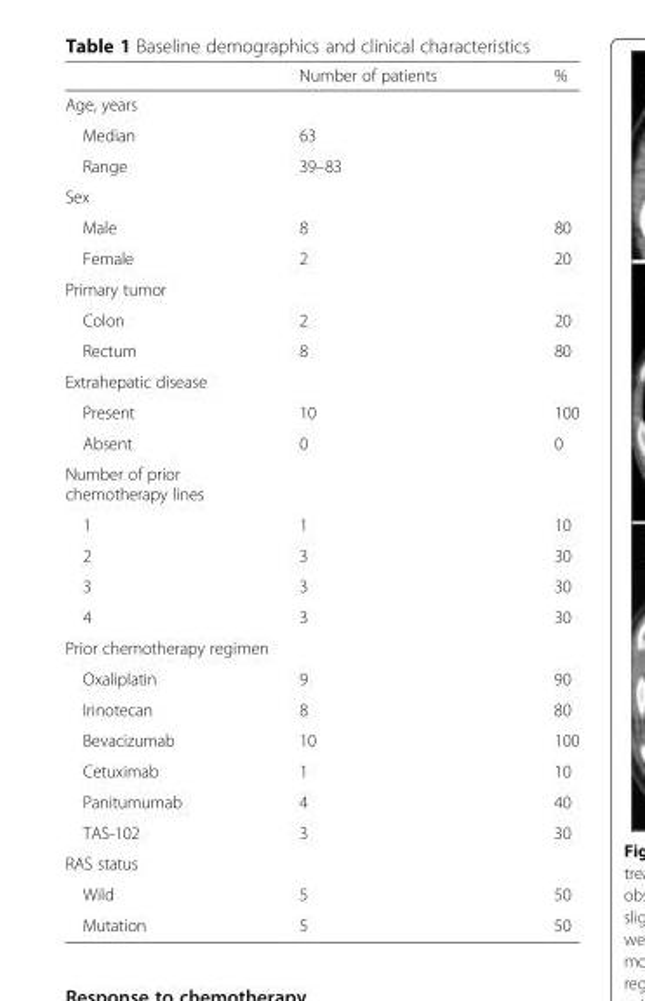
<table><thead><tr><td></td><td>Number of patients</td><td>%</td></tr></thead><tbody><tr><td colspan="3">Age, years</td></tr><tr><td>Median</td><td colspan="2">63</td></tr><tr><td>Range</td><td colspan="2">39–83</td></tr><tr><td colspan="3">Sex</td></tr><tr><td>Male</td><td>8</td><td>80</td></tr><tr><td>Female</td><td>2</td><td>20</td></tr><tr><td colspan="3">Primary tumor</td></tr><tr><td>Colon</td><td>2</td><td>20</td></tr><tr><td>Rectum</td><td>8</td><td>80</td></tr><tr><td colspan="3">Extrahepatic disease</td></tr><tr><td>Present</td><td>10</td><td>100</td></tr><tr><td>Absent</td><td>0</td><td>0</td></tr><tr><td colspan="3">Number of prior chemotherapy lines</td></tr><tr><td>1</td><td>1</td><td>10</td></tr><tr><td>2</td><td>3</td><td>30</td></tr><tr><td>3</td><td>3</td><td>30</td></tr><tr><td>4</td><td>3</td><td>30</td></tr><tr><td colspan="3">Prior chemotherapy regimen</td></tr><tr><td>Oxaliplatin</td><td>9</td><td>90</td></tr><tr><td>Irinotecan</td><td>8</td><td>80</td></tr><tr><td>Bevacizumab</td><td>10</td><td>100</td></tr><tr><td>Cetuximab</td><td>1</td><td>10</td></tr><tr><td>Panitumumab</td><td>4</td><td>40</td></tr><tr><td>TAS-102</td><td>3</td><td>30</td></tr><tr><td colspan="3">RAS status</td></tr><tr><td>Wild</td><td>5</td><td>50</td></tr><tr><td>Mutation</td><td>5</td><td>50</td></tr></tbody></table>